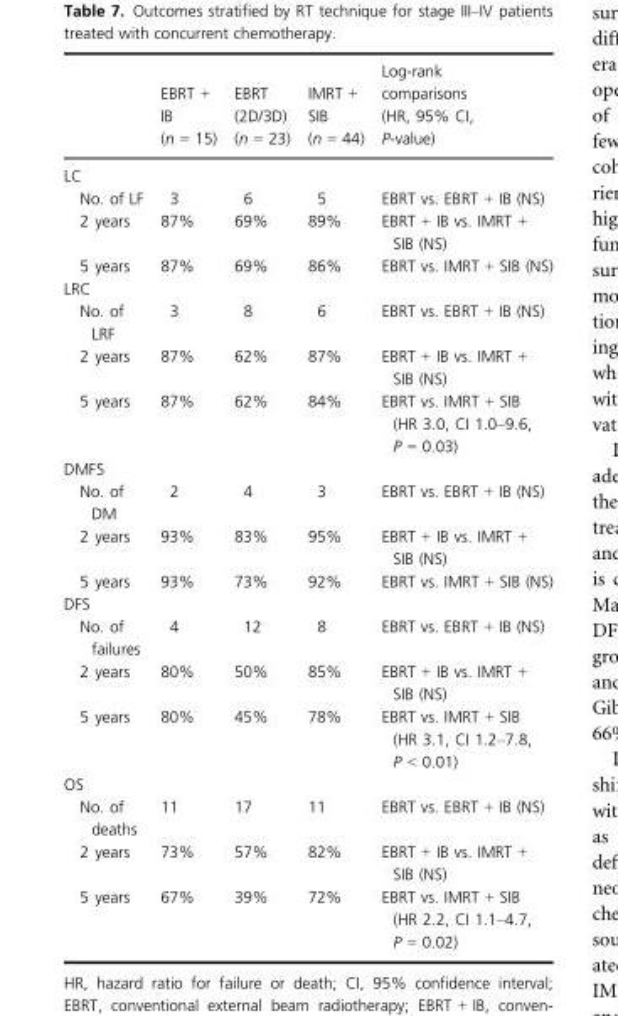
<table><thead><tr><td></td><td>EBRT + IB (n = 15)</td><td>EBRT (2D/3D) (n = 23)</td><td>IMRT + SIB (n = 44)</td><td>Log-rank comparisons (HR, 95% CI, P-value)</td></tr></thead><tbody><tr><td colspan="5">LC</td></tr><tr><td>No. of LF</td><td>3</td><td>6</td><td>5</td><td>EBRT vs. EBRT + IB (NS)</td></tr><tr><td>2 years</td><td>87%</td><td>69%</td><td>89%</td><td>EBRT + IB vs. IMRT + SIB (NS)</td></tr><tr><td>5 years</td><td>87%</td><td>69%</td><td>86%</td><td>EBRT vs. IMRT + SIB (NS)</td></tr><tr><td colspan="5">LRC</td></tr><tr><td>No. of LRF</td><td>3</td><td>8</td><td>6</td><td>EBRT vs. EBRT + IB (NS)</td></tr><tr><td>2 years</td><td>87%</td><td>62%</td><td>87%</td><td>EBRT + IB vs. IMRT + SIB (NS)</td></tr><tr><td>5 years</td><td>87%</td><td>62%</td><td>84%</td><td>EBRT vs. IMRT + SIB (HR 3.0, CI 1.0–9.6, P = 0.03)</td></tr><tr><td colspan="5">DMFS</td></tr><tr><td>No. of DM</td><td>2</td><td>4</td><td>3</td><td>EBRT vs. EBRT + IB (NS)</td></tr><tr><td>2 years</td><td>93%</td><td>83%</td><td>95%</td><td>EBRT + IB vs. IMRT + SIB (NS)</td></tr><tr><td>5 years</td><td>93%</td><td>73%</td><td>92%</td><td>EBRT vs. IMRT + SIB (NS)</td></tr><tr><td colspan="5">DFS</td></tr><tr><td>No. of failures</td><td>4</td><td>12</td><td>8</td><td>EBRT vs. EBRT + IB (NS)</td></tr><tr><td>2 years</td><td>80%</td><td>50%</td><td>85%</td><td>EBRT + IB vs. IMRT + SIB (NS)</td></tr><tr><td>5 years</td><td>80%</td><td>45%</td><td>78%</td><td>EBRT vs. IMRT + SIB (HR 3.1, CI 1.2–7.8, P &lt; 0.01)</td></tr><tr><td colspan="5">OS</td></tr><tr><td>No. of deaths</td><td>11</td><td>17</td><td>11</td><td>EBRT vs. EBRT + IB (NS)</td></tr><tr><td>2 years</td><td>73%</td><td>57%</td><td>82%</td><td>EBRT + IB vs. IMRT + SIB (NS)</td></tr><tr><td>5 years</td><td>67%</td><td>39%</td><td>72%</td><td>EBRT vs. IMRT + SIB (HR 2.2, CI 1.1–4.7, P = 0.02)</td></tr></tbody></table>